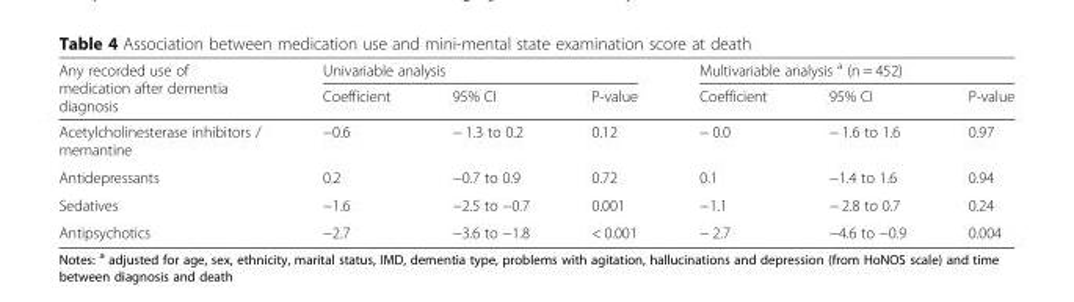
<table><thead><tr><td rowspan="2">Any recorded use of medication after dementia diagnosis</td><td colspan="3">Univariable analysis</td><td colspan="3">Multivariable analysis <sup>a</sup> (n = 452)</td></tr><tr><td>Coefficient</td><td>95% CI</td><td>P-value</td><td>Coefficient</td><td>95% CI</td><td>P-value</td></tr></thead><tbody><tr><td>Acetylcholinesterase inhibitors / memantine</td><td>−0.6</td><td>− 1.3 to 0.2</td><td>0.12</td><td>− 0.0</td><td>− 1.6 to 1.6</td><td>0.97</td></tr><tr><td>Antidepressants</td><td>0.2</td><td>−0.7 to 0.9</td><td>0.72</td><td>0.1</td><td>−1.4 to 1.6</td><td>0.94</td></tr><tr><td>Sedatives</td><td>−1.6</td><td>−2.5 to −0.7</td><td>0.001</td><td>−1.1</td><td>− 2.8 to 0.7</td><td>0.24</td></tr><tr><td>Antipsychotics</td><td>−2.7</td><td>−3.6 to −1.8</td><td>&lt; 0.001</td><td>− 2.7</td><td>−4.6 to −0.9</td><td>0.004</td></tr></tbody></table>